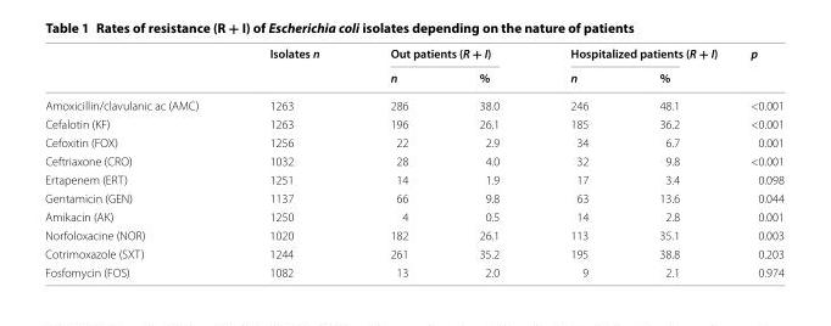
<table><thead><tr><td rowspan="2"></td><td rowspan="2">Isolates n</td><td colspan="2">Out patients (R + I)</td><td colspan="2">Hospitalized patients (R + I)</td><td rowspan="2">p</td></tr><tr><td>n</td><td>%</td><td>n</td><td>%</td></tr></thead><tbody><tr><td>Amoxicillin/clavulanic ac (AMC)</td><td>1263</td><td>286</td><td>38.0</td><td>246</td><td>48.1</td><td>&lt;0.001</td></tr><tr><td>Cefalotin (KF)</td><td>1263</td><td>196</td><td>26.1</td><td>185</td><td>36.2</td><td>&lt;0.001</td></tr><tr><td>Cefoxitin (FOX)</td><td>1256</td><td>22</td><td>2.9</td><td>34</td><td>6.7</td><td>0.001</td></tr><tr><td>Ceftriaxone (CRO)</td><td>1032</td><td>28</td><td>4.0</td><td>32</td><td>9.8</td><td>&lt;0.001</td></tr><tr><td>Ertapenem (ERT)</td><td>1251</td><td>14</td><td>1.9</td><td>17</td><td>3.4</td><td>0.098</td></tr><tr><td>Gentamicin (GEN)</td><td>1137</td><td>66</td><td>9.8</td><td>63</td><td>13.6</td><td>0.044</td></tr><tr><td>Amikacin (AK)</td><td>1250</td><td>4</td><td>0.5</td><td>14</td><td>2.8</td><td>0.001</td></tr><tr><td>Norfoloxacine (NOR)</td><td>1020</td><td>182</td><td>26.1</td><td>113</td><td>35.1</td><td>0.003</td></tr><tr><td>Cotrimoxazole (SXT)</td><td>1244</td><td>261</td><td>35.2</td><td>195</td><td>38.8</td><td>0.203</td></tr><tr><td>Fosfomycin (FOS)</td><td>1082</td><td>13</td><td>2.0</td><td>9</td><td>2.1</td><td>0.974</td></tr></tbody></table>